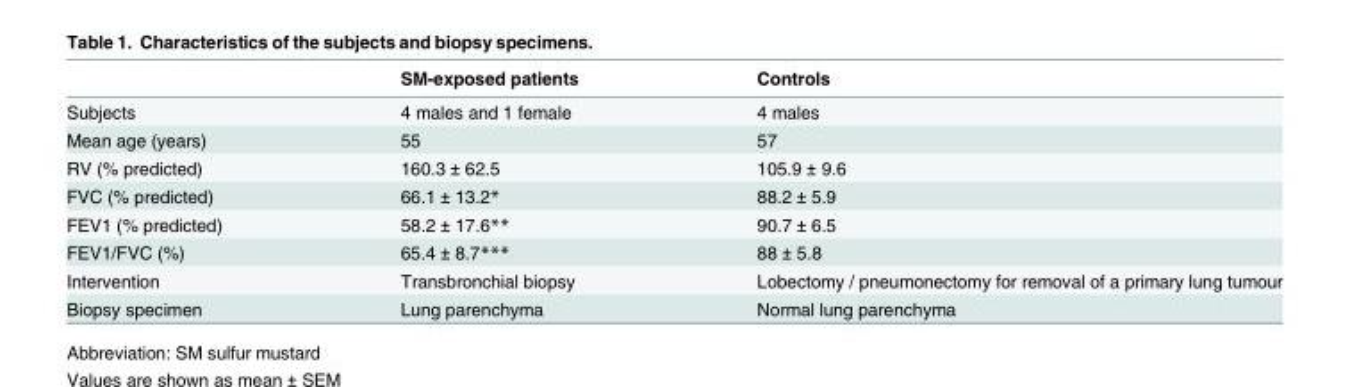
<table><thead><tr><td></td><td>SM-exposed patients</td><td>Controls</td></tr></thead><tbody><tr><td>Subjects</td><td>4 males and 1 female</td><td>4 males</td></tr><tr><td>Mean age (years)</td><td>55</td><td>57</td></tr><tr><td>RV (% predicted)</td><td>160.3 ± 62.5</td><td>105.9 ± 9.6</td></tr><tr><td>FVC (% predicted)</td><td>66.1 ± 13.2*</td><td>88.2 ± 5.9</td></tr><tr><td>FEV1 (% predicted)</td><td>58.2 ± 17.6**</td><td>90.7 ± 6.5</td></tr><tr><td>FEV1/FVC (%)</td><td>65.4 ± 8.7***</td><td>88 ± 5.8</td></tr><tr><td>Intervention</td><td>Transbronchial biopsy</td><td>Lobectomy / pneumonectomy for removal of a primary lung tumour</td></tr><tr><td>Biopsy specimen</td><td>Lung parenchyma</td><td>Normal lung parenchyma</td></tr></tbody></table>